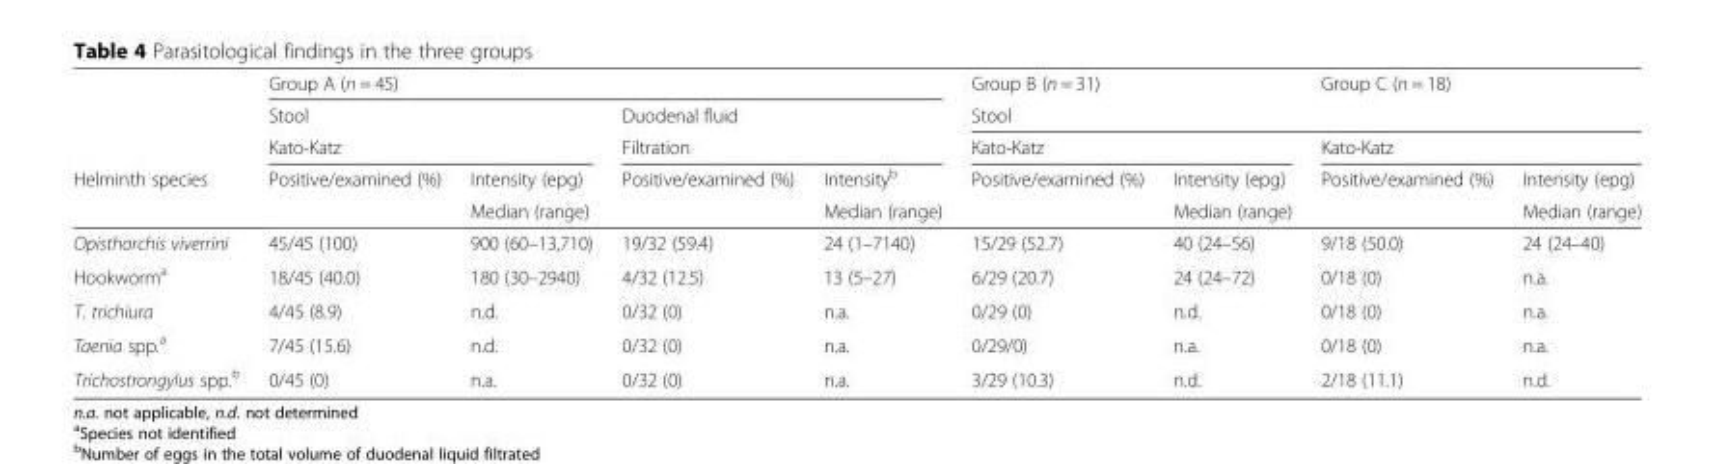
<table><thead><tr><td rowspan="5">Helminth species</td><td colspan="4">Group A (n = 45)</td><td>Group B (n = 31)</td><td></td><td>Group C (n = 18)</td><td></td></tr><tr><td>Stool</td><td></td><td>Duodenal fluid</td><td></td><td colspan="4">Stool</td></tr><tr><td colspan="2">Kato-Katz</td><td colspan="2">Filtration</td><td colspan="2">Kato-Katz</td><td colspan="2">Kato-Katz</td></tr><tr><td rowspan="2">Positive/examined (%)</td><td rowspan="2">Intensity (epg) Median (range)</td><td rowspan="2">Positive/examined (%)</td><td rowspan="2">Intensity<sup>b</sup> Median (range)</td><td rowspan="2">Positive/examined (%)</td><td rowspan="2">Intensity (epg) Median (range)</td><td rowspan="2">Positive/examined (%)</td><td rowspan="2">Intensity (epg) Median (range)</td></tr><tr></tr></thead><tbody><tr><td>Opisthorchis viverrini</td><td>45/45 (100)</td><td>900 (60–13,710)</td><td>19/32 (59.4)</td><td>24 (1–7140)</td><td>15/29 (52.7)</td><td>40 (24–56)</td><td>9/18 (50.0)</td><td>24 (24–40)</td></tr><tr><td>Hookworm<sup>a</sup></td><td>18/45 (40.0)</td><td>180 (30–2940)</td><td>4/32 (12.5)</td><td>13 (5–27)</td><td>6/29 (20.7)</td><td>24 (24–72)</td><td>0/18 (0)</td><td>n.a.</td></tr><tr><td>T. trichiura</td><td>4/45 (8.9)</td><td>n.d.</td><td>0/32 (0)</td><td>n.a.</td><td>0/29 (0)</td><td>n.d.</td><td>0/18 (0)</td><td>n.a.</td></tr><tr><td>Taenia spp.<sup>a</sup></td><td>7/45 (15.6)</td><td>n.d.</td><td>0/32 (0)</td><td>n.a.</td><td>0/29/0)</td><td>n.a.</td><td>0/18 (0)</td><td>n.a.</td></tr><tr><td>Trichostrongylus spp.<sup>b</sup></td><td>0/45 (0)</td><td>n.a.</td><td>0/32 (0)</td><td>n.a.</td><td>3/29 (10.3)</td><td>n.d.</td><td>2/18 (11.1)</td><td>n.d.</td></tr></tbody></table>